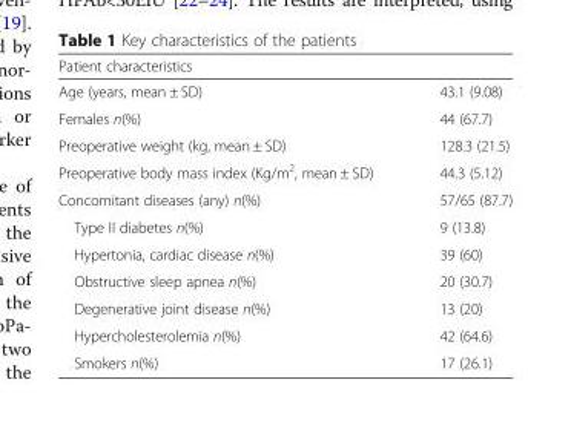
<table><thead><tr><td>Patient characteristics</td><td></td></tr></thead><tbody><tr><td>Age (years, mean ± SD)</td><td>43.1 (9.08)</td></tr><tr><td>Females n(%)</td><td>44 (67.7)</td></tr><tr><td>Preoperative weight (kg, mean ± SD)</td><td>128.3 (21.5)</td></tr><tr><td>Preoperative body mass index (Kg/m<sup>2</sup>, mean ± SD)</td><td>44.3 (5.12)</td></tr><tr><td>Concomitant diseases (any) n(%)</td><td>57/65 (87.7)</td></tr><tr><td>Type II diabetes n(%)</td><td>9 (13.8)</td></tr><tr><td>Hypertonia, cardiac disease n(%)</td><td>39 (60)</td></tr><tr><td>Obstructive sleep apnea n(%)</td><td>20 (30.7)</td></tr><tr><td>Degenerative joint disease n(%)</td><td>13 (20)</td></tr><tr><td>Hypercholesterolemia n(%)</td><td>42 (64.6)</td></tr><tr><td>Smokers n(%)</td><td>17 (26.1)</td></tr></tbody></table>